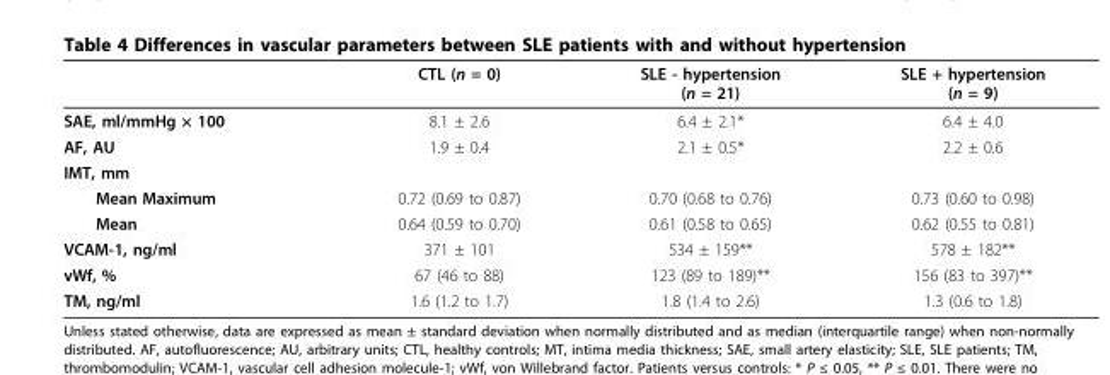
<table><thead><tr><td></td><td>CTL (n = 0)</td><td>SLE - hypertension (n = 21)</td><td>SLE + hypertension (n = 9)</td></tr></thead><tbody><tr><td>SAE, ml/mmHg × 100</td><td>8.1 ± 2.6</td><td>6.4 ± 2.1*</td><td>6.4 ± 4.0</td></tr><tr><td>AF, AU</td><td>1.9 ± 0.4</td><td>2.1 ± 0.5*</td><td>2.2 ± 0.6</td></tr><tr><td colspan="4">IMT, mm</td></tr><tr><td>Mean Maximum</td><td>0.72 (0.69 to 0.87)</td><td>0.70 (0.68 to 0.76)</td><td>0.73 (0.60 to 0.98)</td></tr><tr><td>Mean</td><td>0.64 (0.59 to 0.70)</td><td>0.61 (0.58 to 0.65)</td><td>0.62 (0.55 to 0.81)</td></tr><tr><td>VCAM-1, ng/ml</td><td>371 ± 101</td><td>534 ± 159**</td><td>578 ± 182**</td></tr><tr><td>vWf, %</td><td>67 (46 to 88)</td><td>123 (89 to 189)**</td><td>156 (83 to 397)**</td></tr><tr><td>TM, ng/ml</td><td>1.6 (1.2 to 1.7)</td><td>1.8 (1.4 to 2.6)</td><td>1.3 (0.6 to 1.8)</td></tr></tbody></table>